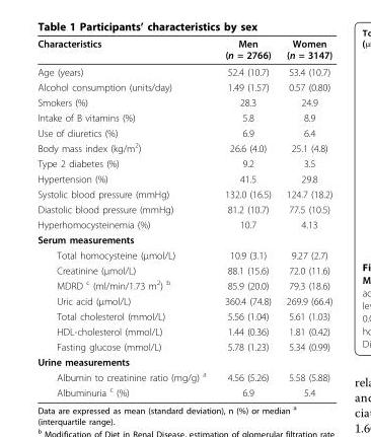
<table><thead><tr><td>Characteristics</td><td>Men (n = 2766)</td><td>Women (n = 3147)</td></tr></thead><tbody><tr><td>Age (years)</td><td>52.4 (10.7)</td><td>53.4 (10.7)</td></tr><tr><td>Alcohol consumption (units/day)</td><td>1.49 (1.57)</td><td>0.57 (0.80)</td></tr><tr><td>Smokers (%)</td><td>28.3</td><td>24.9</td></tr><tr><td>Intake of B vitamins (%)</td><td>5.8</td><td>8.9</td></tr><tr><td>Use of diuretics (%)</td><td>6.9</td><td>6.4</td></tr><tr><td>Body mass index (kg/m<sup>2</sup>)</td><td>26.6 (4.0)</td><td>25.1 (4.8)</td></tr><tr><td>Type 2 diabetes (%)</td><td>9.2</td><td>3.5</td></tr><tr><td>Hypertension (%)</td><td>41.5</td><td>29.8</td></tr><tr><td>Systolic blood pressure (mmHg)</td><td>132.0 (16.5)</td><td>124.7 (18.2)</td></tr><tr><td>Diastolic blood pressure (mmHg)</td><td>81.2 (10.7)</td><td>77.5 (10.5)</td></tr><tr><td>Hyperhomocysteinemia (%)</td><td>10.7</td><td>4.13</td></tr><tr><td colspan="3">Serum measurements</td></tr><tr><td>Total homocysteine (μmol/L)</td><td>10.9 (3.1)</td><td>9.27 (2.7)</td></tr><tr><td>Creatinine (μmol/L)</td><td>88.1 (15.6)</td><td>72.0 (11.6)</td></tr><tr><td>MDRD <sup>c</sup> (ml/min/1.73 m<sup>2</sup>) <sup>b</sup></td><td>85.9 (20.0)</td><td>79.3 (18.6)</td></tr><tr><td>Uric acid (μmol/L)</td><td>360.4 (74.8)</td><td>269.9 (66.4)</td></tr><tr><td>Total cholesterol (mmol/L)</td><td>5.56 (1.04)</td><td>5.61 (1.03)</td></tr><tr><td>HDL-cholesterol (mmol/L)</td><td>1.44 (0.36)</td><td>1.81 (0.42)</td></tr><tr><td>Fasting glucose (mmol/L)</td><td>5.78 (1.23)</td><td>5.34 (0.99)</td></tr><tr><td colspan="3">Urine measurements</td></tr><tr><td>Albumin to creatinine ratio (mg/g) <sup>a</sup></td><td>4.56 (5.26)</td><td>5.58 (5.88)</td></tr><tr><td>Albuminuria <sup>c</sup> (%)</td><td>6.9</td><td>5.4</td></tr></tbody></table>